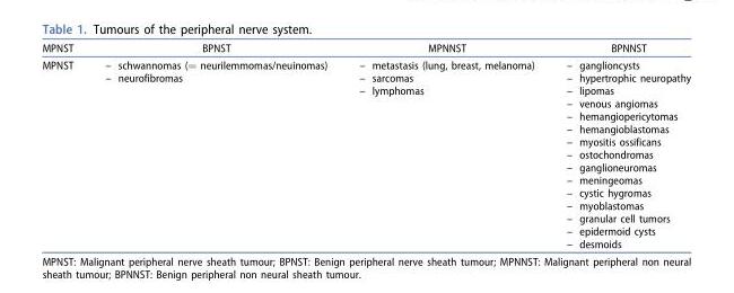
<table><thead><tr><td>MPNST</td><td>BPNST</td><td>MPNNST</td><td>BPNNST</td></tr></thead><tbody><tr><td>MPNST</td><td>– schwannomas (= neurilemmomas/neuinomas) – neurofibromas</td><td>– metastasis (lung, breast, melanoma) – sarcomas – lymphomas</td><td>– ganglioncysts – hypertrophic neuropathy – lipomas – venous angiomas – hemangiopericytomas – hemangioblastomas – myositis ossificans – ostochondromas – ganglioneuromas – meningeomas – cystic hygromas – myoblastomas – granular cell tumors – epidermoid cysts – desmoids</td></tr></tbody></table>